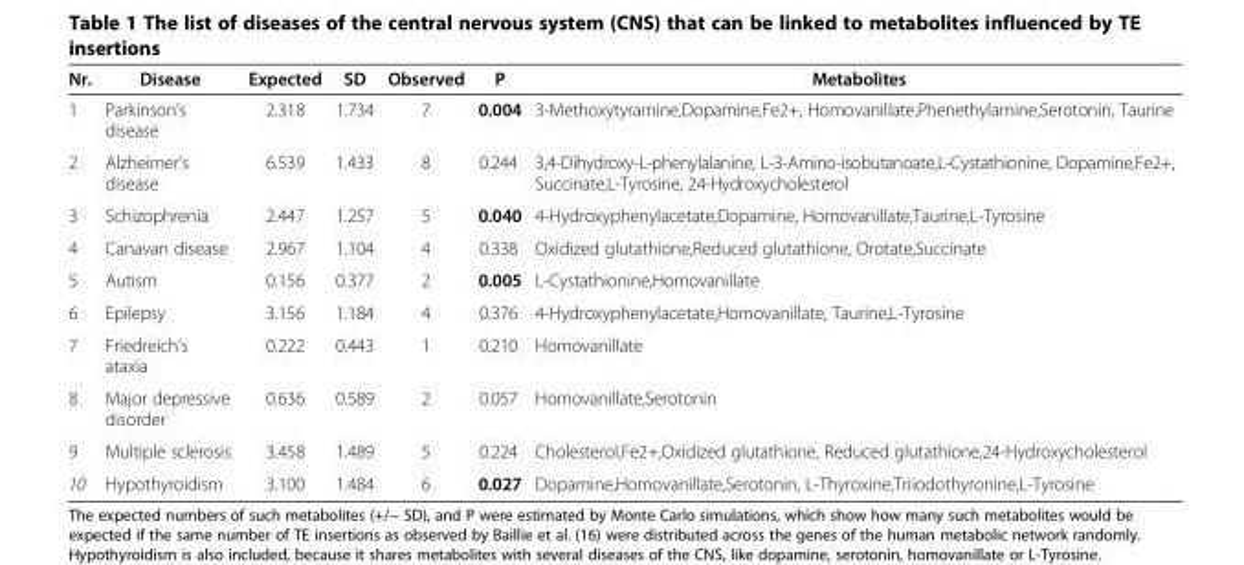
<table><thead><tr><td>Nr.</td><td>Disease</td><td>Expected</td><td>SD</td><td>Observed</td><td>P</td><td>Metabolites</td></tr></thead><tbody><tr><td>1</td><td>Parkinson’s disease</td><td>2.318</td><td>1.734</td><td>7</td><td>0.004</td><td>3-Methoxytyramine,Dopamine,Fe2+, Homovanillate,Phenethylamine,Serotonin, Taurine</td></tr><tr><td>2</td><td>Alzheimer’s disease</td><td>6.539</td><td>1.433</td><td>8</td><td>0.244</td><td>3,4-Dihydroxy-L-phenylalanine, L-3-Amino-isobutanoate,L-Cystathionine, Dopamine,Fe2+, Succinate,L-Tyrosine, 24-Hydroxycholesterol</td></tr><tr><td>3</td><td>Schizophrenia</td><td>2.447</td><td>1.257</td><td>5</td><td>0.040</td><td>4-Hydroxyphenylacetate,Dopamine, Homovanillate,Taurine,L-Tyrosine</td></tr><tr><td>4</td><td>Canavan disease</td><td>2.967</td><td>1.104</td><td>4</td><td>0.338</td><td>Oxidized glutathione,Reduced glutathione, Orotate,Succinate</td></tr><tr><td>5</td><td>Autism</td><td>0.156</td><td>0.377</td><td>2</td><td>0.005</td><td>L-Cystathionine,Homovanillate</td></tr><tr><td>6</td><td>Epilepsy</td><td>3.156</td><td>1.184</td><td>4</td><td>0.376</td><td>4-Hydroxyphenylacetate,Homovanillate, Taurine,L-Tyrosine</td></tr><tr><td>7</td><td>Friedreich’s ataxia</td><td>0.222</td><td>0.443</td><td>1</td><td>0.210</td><td>Homovanillate</td></tr><tr><td>8</td><td>Major depressive disorder</td><td>0.636</td><td>0.589</td><td>2</td><td>0.057</td><td>Homovanillate,Serotonin</td></tr><tr><td>9</td><td>Multiple sclerosis</td><td>3.458</td><td>1.489</td><td>5</td><td>0.224</td><td>Cholesterol,Fe2+,Oxidized glutathione, Reduced glutathione,24-Hydroxycholesterol</td></tr><tr><td>10</td><td>Hypothyroidism</td><td>3.100</td><td>1.484</td><td>6</td><td>0.027</td><td>Dopamine,Homovanillate,Serotonin, L-Thyroxine,Triiodothyronine,L-Tyrosine</td></tr></tbody></table>